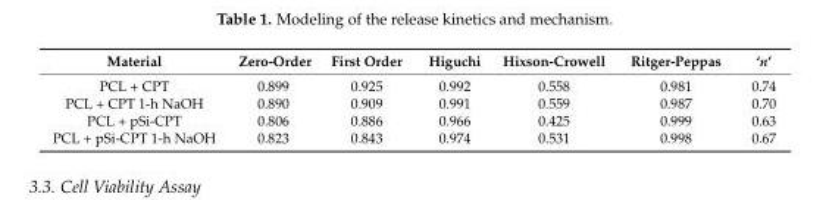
<table><thead><tr><td>Material</td><td>Zero-Order</td><td>First Order</td><td>Higuchi</td><td>Hixson-Crowell</td><td>Ritger-Peppas</td><td>‘n’</td></tr></thead><tbody><tr><td>PCL + CPT</td><td>0.899</td><td>0.925</td><td>0.992</td><td>0.558</td><td>0.981</td><td>0.74</td></tr><tr><td>PCL + CPT 1-h NaOH</td><td>0.890</td><td>0.909</td><td>0.991</td><td>0.559</td><td>0.987</td><td>0.70</td></tr><tr><td>PCL + pSi-CPT</td><td>0.806</td><td>0.886</td><td>0.966</td><td>0.425</td><td>0.999</td><td>0.63</td></tr><tr><td>PCL + pSi-CPT 1-h NaOH</td><td>0.823</td><td>0.843</td><td>0.974</td><td>0.531</td><td>0.998</td><td>0.67</td></tr></tbody></table>